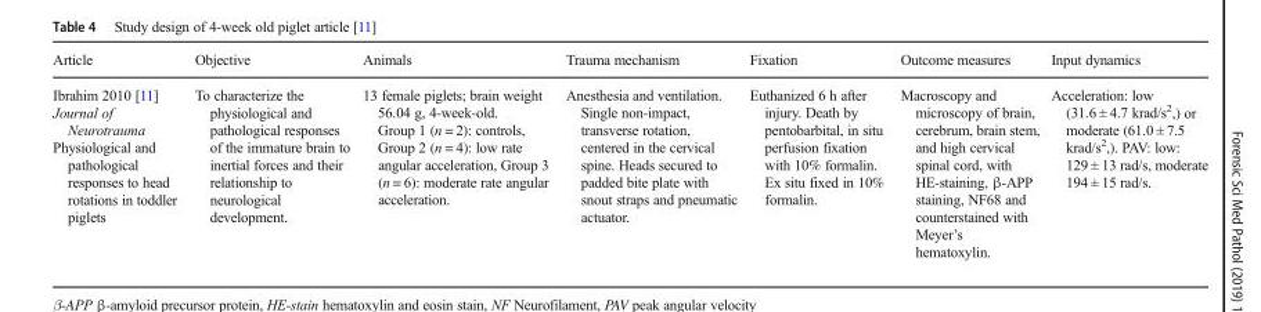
<table><thead><tr><td>Article</td><td>Objective</td><td>Animals</td><td>Trauma mechanism</td><td>Fixation</td><td>Outcome measures</td><td>Input dynamics</td></tr></thead><tbody><tr><td>Ibrahim 2010 [11] Journal of Neurotrauma Physiological and pathological responses to head rotations in toddler piglets</td><td>To characterize the physiological and pathological responses of the immature brain to inertial forces and their relationship to neurological development.</td><td>13 female piglets; brain weight 56.04 g, 4-week-old. Group 1 (n = 2): controls, Group 2 (n = 4): low rate angular acceleration, Group 3 (n = 6): moderate rate angular acceleration.</td><td>Anesthesia and ventilation. Single non-impact, transverse rotation, centered in the cervical spine. Heads secured to padded bite plate with snout straps and pneumatic actuator.</td><td>Euthanized 6 h after injury. Death by pentobarbital, in situ perfusion fixation with 10% formalin. Ex situ fixed in 10% formalin.</td><td>Macroscopy and microscopy of brain, cerebrum, brain stem, and high cervical spinal cord, with HE-staining, β-APP staining, NF68 and counterstained with Meyer’s hematoxylin.</td><td>Acceleration: low (31.6 ± 4.7 krad/s<sup>2</sup>,) or moderate (61.0 ± 7.5 krad/s<sup>2</sup>,). PAV: low: 129 ± 13 rad/s, moderate 194 ± 15 rad/s.</td></tr></tbody></table>